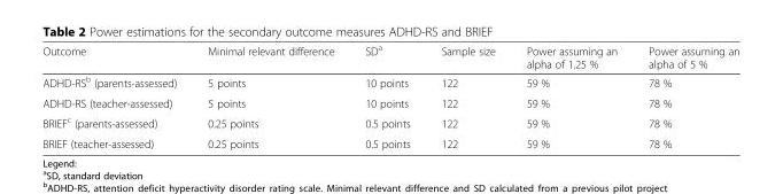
<table><thead><tr><td>Outcome</td><td>Minimal relevant difference</td><td>SD<sup>a</sup></td><td>Sample size</td><td>Power assuming an alpha of 1.25 %</td><td>Power assuming an alpha of 5 %</td></tr></thead><tbody><tr><td>ADHD-RS<sup>b</sup> (parents-assessed)</td><td>5 points</td><td>10 points</td><td>122</td><td>59 %</td><td>78 %</td></tr><tr><td>ADHD-RS (teacher-assessed)</td><td>5 points</td><td>10 points</td><td>122</td><td>59 %</td><td>78 %</td></tr><tr><td>BRIEF<sup>c</sup> (parents-assessed)</td><td>0.25 points</td><td>0.5 points</td><td>122</td><td>59 %</td><td>78 %</td></tr><tr><td>BRIEF (teacher-assessed)</td><td>0.25 points</td><td>0.5 points</td><td>122</td><td>59 %</td><td>78 %</td></tr></tbody></table>